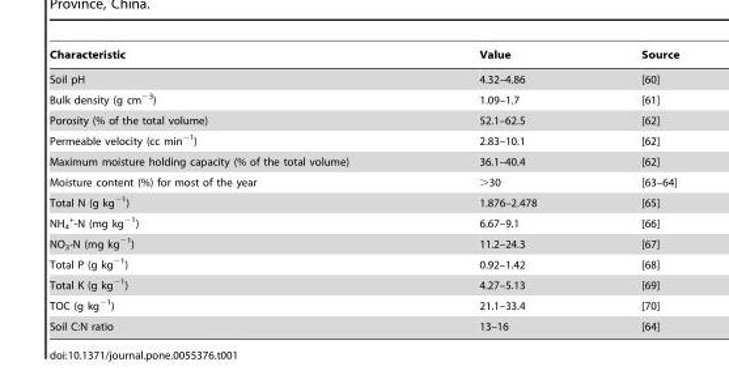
<table><thead><tr><td>Characteristic</td><td>Value</td><td>Source</td></tr></thead><tbody><tr><td>Soil pH</td><td>4.32–4.86</td><td>[60]</td></tr><tr><td>Bulk density (g cm<sup>−3</sup>)</td><td>1.09–1.7</td><td>[61]</td></tr><tr><td>Porosity (% of the total volume)</td><td>52.1–62.5</td><td>[62]</td></tr><tr><td>Permeable velocity (cc min<sup>−1</sup>)</td><td>2.83–10.1</td><td>[62]</td></tr><tr><td>Maximum moisture holding capacity (% of the total volume)</td><td>36.1–40.4</td><td>[62]</td></tr><tr><td>Moisture content (%) for most of the year</td><td>&gt;30</td><td>[63–64]</td></tr><tr><td>Total N (g kg<sup>−1</sup>)</td><td>1.876–2.478</td><td>[65]</td></tr><tr><td>NH<sub>4</sub> <sup>+</sup>-N (mg kg<sup>−1</sup>)</td><td>6.67–9.1</td><td>[66]</td></tr><tr><td>NO<sub>3</sub>-N (mg kg<sup>−1</sup>)</td><td>11.2–24.3</td><td>[67]</td></tr><tr><td>Total P (g kg<sup>−1</sup>)</td><td>0.92–1.42</td><td>[68]</td></tr><tr><td>Total K (g kg<sup>−1</sup>)</td><td>4.27–5.13</td><td>[69]</td></tr><tr><td>TOC (g kg<sup>−1</sup>)</td><td>21.1–33.4</td><td>[70]</td></tr><tr><td>Soil C:N ratio</td><td>13–16</td><td>[64]</td></tr></tbody></table>